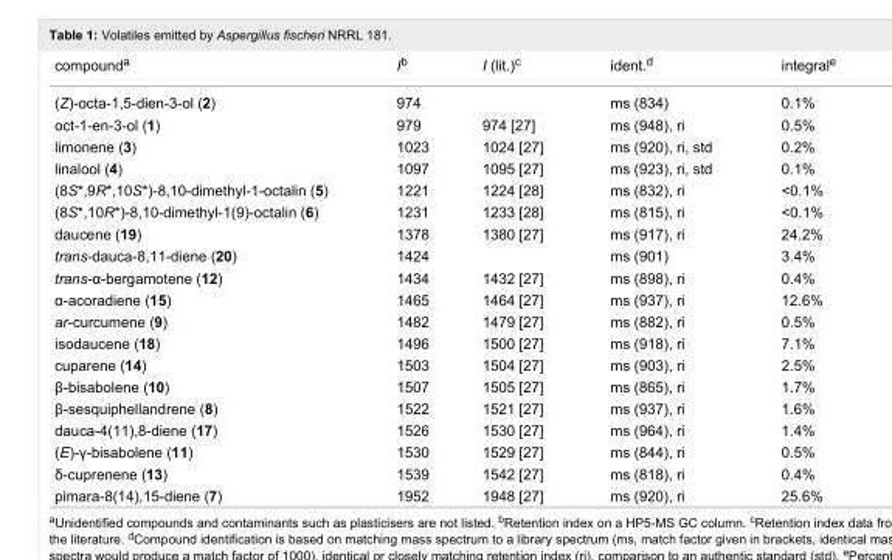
<table><tbody><tr><td>compound<sup>a</sup></td><td>I<sup>b</sup></td><td>I (lit.)<sup>c</sup></td><td>ident.<sup>d</sup></td><td>integral<sup>e</sup></td></tr><tr><td>(Z)-octa-1,5-dien-3-ol (2)</td><td>974</td><td></td><td>ms (834)</td><td>0.1%</td></tr><tr><td>oct-1-en-3-ol (1)</td><td>979</td><td>974 [27]</td><td>ms (948), ri</td><td>0.5%</td></tr><tr><td>limonene (3)</td><td>1023</td><td>1024 [27]</td><td>ms (920), ri, std</td><td>0.2%</td></tr><tr><td>linalool (4)</td><td>1097</td><td>1095 [27]</td><td>ms (923), ri, std</td><td>0.1%</td></tr><tr><td>(8S*,9R*,10S*)-8,10-dimethyl-1-octalin (5)</td><td>1221</td><td>1224 [28]</td><td>ms (832), ri</td><td>&lt;0.1%</td></tr><tr><td>(8S*,10R*)-8,10-dimethyl-1(9)-octalin (6)</td><td>1231</td><td>1233 [28]</td><td>ms (815), ri</td><td>&lt;0.1%</td></tr><tr><td>daucene (19)</td><td>1378</td><td>1380 [27]</td><td>ms (917), ri</td><td>24.2%</td></tr><tr><td>trans-dauca-8,11-diene (20)</td><td>1424</td><td></td><td>ms (901)</td><td>3.4%</td></tr><tr><td>trans-α-bergamotene (12)</td><td>1434</td><td>1432 [27]</td><td>ms (898), ri</td><td>0.4%</td></tr><tr><td>α-acoradiene (15)</td><td>1465</td><td>1464 [27]</td><td>ms (937), ri</td><td>12.6%</td></tr><tr><td>ar-curcumene (9)</td><td>1482</td><td>1479 [27]</td><td>ms (882), ri</td><td>0.5%</td></tr><tr><td>isodaucene (18)</td><td>1496</td><td>1500 [27]</td><td>ms (918), ri</td><td>7.1%</td></tr><tr><td>cuparene (14)</td><td>1503</td><td>1504 [27]</td><td>ms (903), ri</td><td>2.5%</td></tr><tr><td>β-bisabolene (10)</td><td>1507</td><td>1505 [27]</td><td>ms (865), ri</td><td>1.7%</td></tr><tr><td>β-sesquiphellandrene (8)</td><td>1522</td><td>1521 [27]</td><td>ms (937), ri</td><td>1.6%</td></tr><tr><td>dauca-4(11),8-diene (17)</td><td>1526</td><td>1530 [27]</td><td>ms (964), ri</td><td>1.4%</td></tr><tr><td>(E)-γ-bisabolene (11)</td><td>1530</td><td>1529 [27]</td><td>ms (844), ri</td><td>0.5%</td></tr><tr><td>δ-cuprenene (13)</td><td>1539</td><td>1542 [27]</td><td>ms (818), ri</td><td>0.4%</td></tr><tr><td>pimara-8(14),15-diene (7)</td><td>1952</td><td>1948 [27]</td><td>ms (920), ri</td><td>25.6%</td></tr></tbody></table>